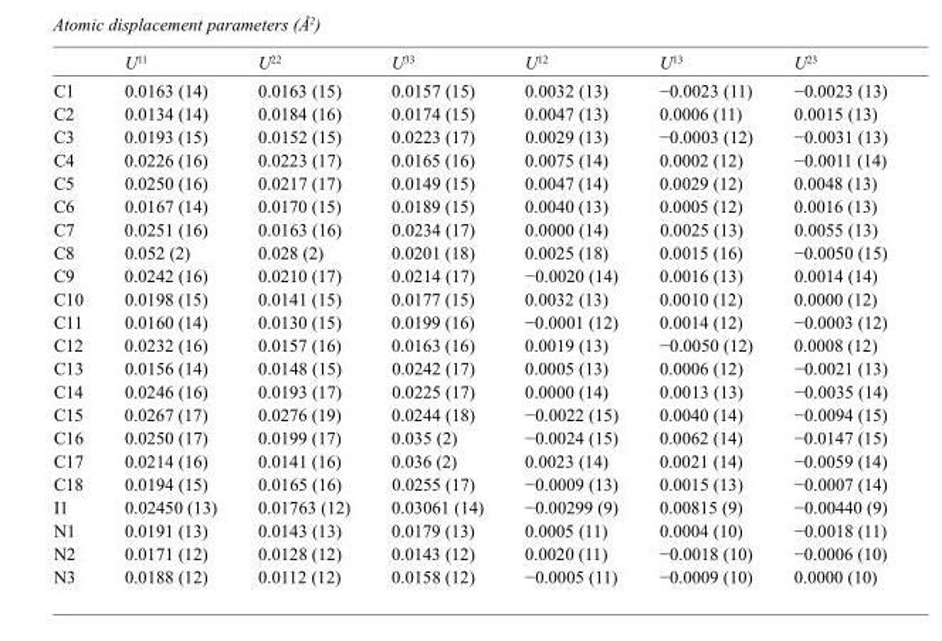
<table><thead><tr><td></td><td>U<sup>11</sup></td><td>U<sup>22</sup></td><td>U<sup>33</sup></td><td>U<sup>12</sup></td><td>U<sup>13</sup></td><td>U<sup>23</sup></td></tr></thead><tbody><tr><td>C1</td><td>0.0163 (14)</td><td>0.0163 (15)</td><td>0.0157 (15)</td><td>0.0032 (13)</td><td>−0.0023 (11)</td><td>−0.0023 (13)</td></tr><tr><td>C2</td><td>0.0134 (14)</td><td>0.0184 (16)</td><td>0.0174 (15)</td><td>0.0047 (13)</td><td>0.0006 (11)</td><td>0.0015 (13)</td></tr><tr><td>C3</td><td>0.0193 (15)</td><td>0.0152 (15)</td><td>0.0223 (17)</td><td>0.0029 (13)</td><td>−0.0003 (12)</td><td>−0.0031 (13)</td></tr><tr><td>C4</td><td>0.0226 (16)</td><td>0.0223 (17)</td><td>0.0165 (16)</td><td>0.0075 (14)</td><td>0.0002 (12)</td><td>−0.0011 (14)</td></tr><tr><td>C5</td><td>0.0250 (16)</td><td>0.0217 (17)</td><td>0.0149 (15)</td><td>0.0047 (14)</td><td>0.0029 (12)</td><td>0.0048 (13)</td></tr><tr><td>C6</td><td>0.0167 (14)</td><td>0.0170 (15)</td><td>0.0189 (15)</td><td>0.0040 (13)</td><td>0.0005 (12)</td><td>0.0016 (13)</td></tr><tr><td>C7</td><td>0.0251 (16)</td><td>0.0163 (16)</td><td>0.0234 (17)</td><td>0.0000 (14)</td><td>0.0025 (13)</td><td>0.0055 (13)</td></tr><tr><td>C8</td><td>0.052 (2)</td><td>0.028 (2)</td><td>0.0201 (18)</td><td>0.0025 (18)</td><td>0.0015 (16)</td><td>−0.0050 (15)</td></tr><tr><td>C9</td><td>0.0242 (16)</td><td>0.0210 (17)</td><td>0.0214 (17)</td><td>−0.0020 (14)</td><td>0.0016 (13)</td><td>0.0014 (14)</td></tr><tr><td>C10</td><td>0.0198 (15)</td><td>0.0141 (15)</td><td>0.0177 (15)</td><td>0.0032 (13)</td><td>0.0010 (12)</td><td>0.0000 (12)</td></tr><tr><td>C11</td><td>0.0160 (14)</td><td>0.0130 (15)</td><td>0.0199 (16)</td><td>−0.0001 (12)</td><td>0.0014 (12)</td><td>−0.0003 (12)</td></tr><tr><td>C12</td><td>0.0232 (16)</td><td>0.0157 (16)</td><td>0.0163 (16)</td><td>0.0019 (13)</td><td>−0.0050 (12)</td><td>0.0008 (12)</td></tr><tr><td>C13</td><td>0.0156 (14)</td><td>0.0148 (15)</td><td>0.0242 (17)</td><td>0.0005 (13)</td><td>0.0006 (12)</td><td>−0.0021 (13)</td></tr><tr><td>C14</td><td>0.0246 (16)</td><td>0.0193 (17)</td><td>0.0225 (17)</td><td>0.0000 (14)</td><td>0.0013 (13)</td><td>−0.0035 (14)</td></tr><tr><td>C15</td><td>0.0267 (17)</td><td>0.0276 (19)</td><td>0.0244 (18)</td><td>−0.0022 (15)</td><td>0.0040 (14)</td><td>−0.0094 (15)</td></tr><tr><td>C16</td><td>0.0250 (17)</td><td>0.0199 (17)</td><td>0.035 (2)</td><td>−0.0024 (15)</td><td>0.0062 (14)</td><td>−0.0147 (15)</td></tr><tr><td>C17</td><td>0.0214 (16)</td><td>0.0141 (16)</td><td>0.036 (2)</td><td>0.0023 (14)</td><td>0.0021 (14)</td><td>−0.0059 (14)</td></tr><tr><td>C18</td><td>0.0194 (15)</td><td>0.0165 (16)</td><td>0.0255 (17)</td><td>−0.0009 (13)</td><td>0.0015 (13)</td><td>−0.0007 (14)</td></tr><tr><td>I1</td><td>0.02450 (13)</td><td>0.01763 (12)</td><td>0.03061 (14)</td><td>−0.00299 (9)</td><td>0.00815 (9)</td><td>−0.00440 (9)</td></tr><tr><td>N1</td><td>0.0191 (13)</td><td>0.0143 (13)</td><td>0.0179 (13)</td><td>0.0005 (11)</td><td>0.0004 (10)</td><td>−0.0018 (11)</td></tr><tr><td>N2</td><td>0.0171 (12)</td><td>0.0128 (12)</td><td>0.0143 (12)</td><td>0.0020 (11)</td><td>−0.0018 (10)</td><td>−0.0006 (10)</td></tr><tr><td>N3</td><td>0.0188 (12)</td><td>0.0112 (12)</td><td>0.0158 (12)</td><td>−0.0005 (11)</td><td>−0.0009 (10)</td><td>0.0000 (10)</td></tr></tbody></table>